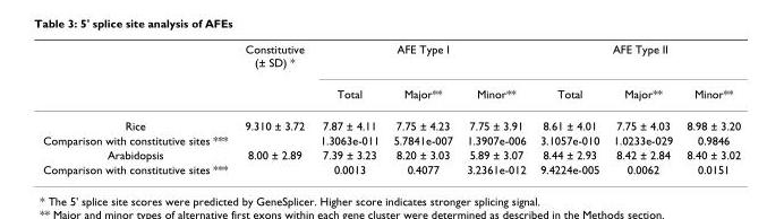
<table><thead><tr><td rowspan="2"></td><td rowspan="2">Constitutive (± SD) *</td><td colspan="3">AFE Type I</td><td colspan="3">AFE Type II</td></tr><tr><td>Total</td><td>Major**</td><td>Minor**</td><td>Total</td><td>Major**</td><td>Minor**</td></tr></thead><tbody><tr><td>Rice</td><td>9.310 ± 3.72</td><td>7.87 ± 4.11</td><td>7.75 ± 4.23</td><td>7.75 ± 3.91</td><td>8.61 ± 4.01</td><td>7.75 ± 4.03</td><td>8.98 ± 3.20</td></tr><tr><td>Comparison with constitutive sites ***</td><td></td><td>1.3063e-011</td><td>5.7841e-007</td><td>1.3907e-006</td><td>3.1057e-010</td><td>1.0233e-029</td><td>0.9846</td></tr><tr><td>Arabidopsis</td><td>8.00 ± 2.89</td><td>7.39 ± 3.23</td><td>8.20 ± 3.03</td><td>5.89 ± 3.07</td><td>8.44 ± 2.93</td><td>8.42 ± 2.84</td><td>8.40 ± 3.02</td></tr><tr><td>Comparison with constitutive sites ***</td><td></td><td>0.0013</td><td>0.4077</td><td>3.2361e-012</td><td>9.4224e-005</td><td>0.0062</td><td>0.0151</td></tr></tbody></table>